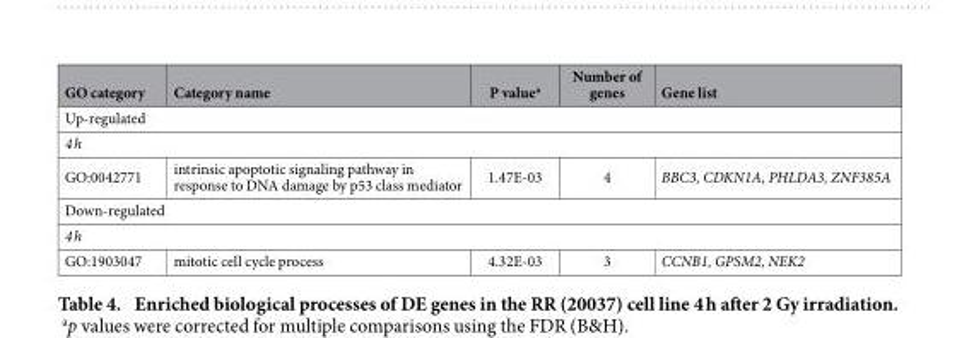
<table><thead><tr><td>GO category</td><td>Category name</td><td>P value<sup>a</sup></td><td>Number of genes</td><td>Gene list</td></tr></thead><tbody><tr><td colspan="5">Up-regulated</td></tr><tr><td colspan="5">4 h</td></tr><tr><td>GO:0042771</td><td>intrinsic apoptotic signaling pathway in response to DNA damage by p53 class mediator</td><td>1.47E-03</td><td>4</td><td>BBC3, CDKN1A, PHLDA3, ZNF385A</td></tr><tr><td colspan="5">Down-regulated</td></tr><tr><td colspan="5">4 h</td></tr><tr><td>GO:1903047</td><td>mitotic cell cycle process</td><td>4.32E-03</td><td>3</td><td>CCNB1, GPSM2, NEK2</td></tr></tbody></table>